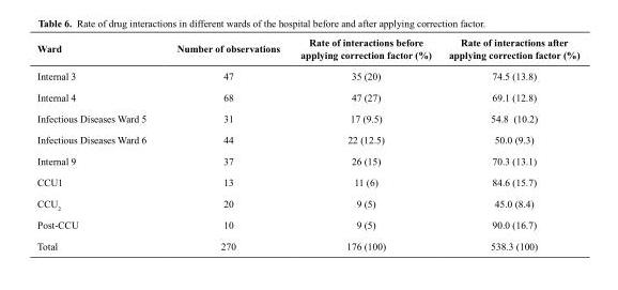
<table><thead><tr><td>Ward</td><td>Number of observations</td><td>Rate of interactions before applying correction factor (%)</td><td>Rate of interactions after applying correction factor (%)</td></tr></thead><tbody><tr><td>Internal 3</td><td>47</td><td>35 (20)</td><td>74.5 (13.8)</td></tr><tr><td>Internal 4</td><td>68</td><td>47 (27)</td><td>69.1 (12.8)</td></tr><tr><td>Infectious Diseases Ward 5</td><td>31</td><td>17 (9.5)</td><td>54.8 (10.2)</td></tr><tr><td>Infectious Diseases Ward 6</td><td>44</td><td>22 (12.5)</td><td>50.0 (9.3)</td></tr><tr><td>Internal 9</td><td>37</td><td>26 (15)</td><td>70.3 (13.1)</td></tr><tr><td>CCU<sub>1</sub></td><td>13</td><td>11 (6)</td><td>84.6 (15.7)</td></tr><tr><td>CCU<sub>2</sub></td><td>20</td><td>9 (5)</td><td>45.0 (8.4)</td></tr><tr><td>Post-CCU</td><td>10</td><td>9 (5)</td><td>90.0 (16.7)</td></tr><tr><td>Total</td><td>270</td><td>176 (100)</td><td>538.3 (100)</td></tr></tbody></table>